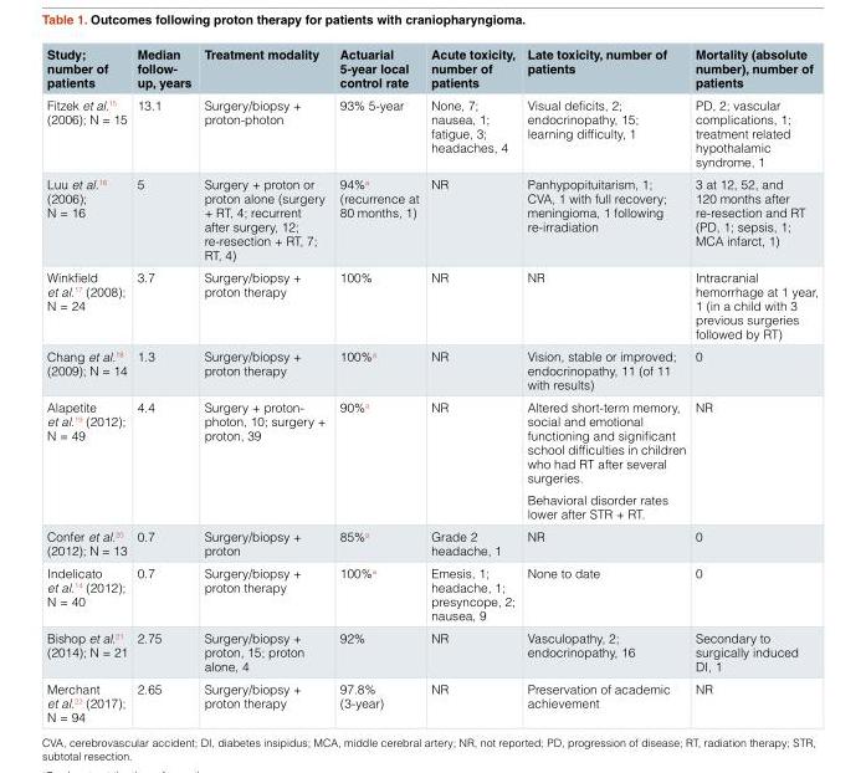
<table><thead><tr><td>Study; number of patients</td><td>Median follow- up, years</td><td>Treatment modality</td><td>Actuarial 5-year local control rate</td><td>Acute toxicity, number of patients</td><td>Late toxicity, number of patients</td><td>Mortality (absolute number), number of patients</td></tr></thead><tbody><tr><td>Fitzek et al.<sup>15</sup> (2006); N = 15</td><td>13.1</td><td>Surgery/biopsy + proton-photon</td><td>93% 5-year</td><td>None, 7; nausea, 1; fatigue, 3; headaches, 4</td><td>Visual deficits, 2; endocrinopathy, 15; learning difficulty, 1</td><td>PD, 2; vascular complications, 1; treatment related hypothalamic syndrome, 1</td></tr><tr><td>Luu et al.<sup>16</sup> (2006); N = 16</td><td>5</td><td>Surgery + proton or proton alone (surgery + RT, 4; recurrent after surgery, 12; re-resection + RT, 7; RT, 4)</td><td>94%<sup>a</sup> (recurrence at 80 months, 1)</td><td>NR</td><td>Panhypopituitarism, 1; CVA, 1 with full recovery; meningioma, 1 following re-irradiation</td><td>3 at 12, 52, and 120 months after re-resection and RT (PD, 1; sepsis, 1; MCA infarct, 1)</td></tr><tr><td>Winkfield et al.<sup>17</sup> (2008); N = 24</td><td>3.7</td><td>Surgery/biopsy + proton therapy</td><td>100%</td><td>NR</td><td>NR</td><td>Intracranial hemorrhage at 1 year, 1 (in a child with 3 previous surgeries followed by RT)</td></tr><tr><td>Chang et al.<sup>18</sup> (2009); N = 14</td><td>1.3</td><td>Surgery/biopsy + proton therapy</td><td>100%<sup>a</sup></td><td>NR</td><td>Vision, stable or improved; endocrinopathy, 11 (of 11 with results)</td><td>0</td></tr><tr><td>Alapetite et al.<sup>19</sup> (2012); N = 49</td><td>4.4</td><td>Surgery + proton- photon, 10; surgery + proton, 39</td><td>90%<sup>a</sup></td><td>NR</td><td>Altered short-term memory, social and emotional functioning and significant school difficulties in children who had RT after several surgeries. Behavioral disorder rates lower after STR + RT.</td><td>NR</td></tr><tr><td>Confer et al.<sup>20</sup> (2012); N = 13</td><td>0.7</td><td>Surgery/biopsy + proton</td><td>85%<sup>a</sup></td><td>Grade 2 headache, 1</td><td>NR</td><td>0</td></tr><tr><td>Indelicato et al.<sup>14</sup> (2012); N = 40</td><td>0.7</td><td>Surgery/biopsy + proton therapy</td><td>100%<sup>a</sup></td><td>Emesis, 1; headache, 1; presyncope, 2; nausea, 9</td><td>None to date</td><td>0</td></tr><tr><td>Bishop et al.<sup>21</sup> (2014); N = 21</td><td>2.75</td><td>Surgery/biopsy + proton, 15; proton alone, 4</td><td>92%</td><td>NR</td><td>Vasculopathy, 2; endocrinopathy, 16</td><td>Secondary to surgically induced DI, 1</td></tr><tr><td>Merchant et al.<sup>22</sup> (2017); N = 94</td><td>2.65</td><td>Surgery/biopsy + proton therapy</td><td>97.8% (3-year)</td><td>NR</td><td>Preservation of academic achievement</td><td>NR</td></tr></tbody></table>